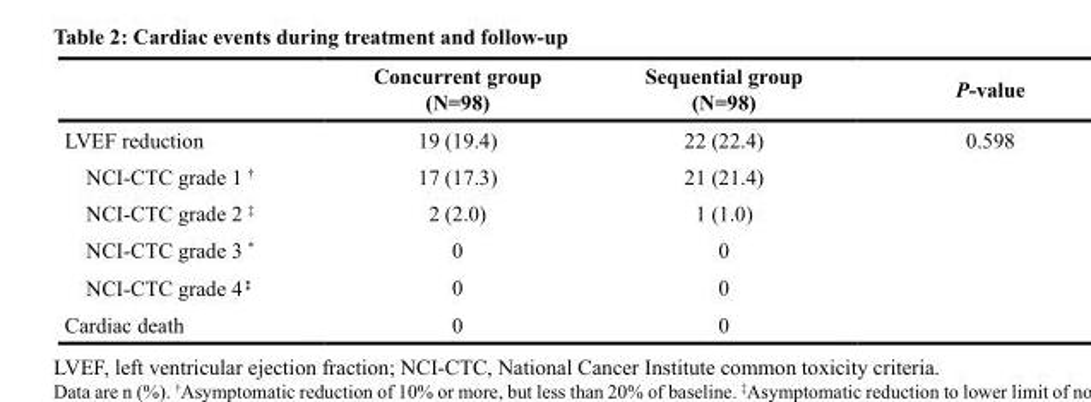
<table><thead><tr><td></td><td>Concurrent group (N=98)</td><td>Sequential group (N=98)</td><td>P-value</td></tr></thead><tbody><tr><td>LVEF reduction</td><td>19 (19.4)</td><td>22 (22.4)</td><td>0.598</td></tr><tr><td>NCI-CTC grade 1 †</td><td>17 (17.3)</td><td>21 (21.4)</td><td></td></tr><tr><td>NCI-CTC grade 2 ‡</td><td>2 (2.0)</td><td>1 (1.0)</td><td></td></tr><tr><td>NCI-CTC grade 3 *</td><td>0</td><td>0</td><td></td></tr><tr><td>NCI-CTC grade 4⁑</td><td>0</td><td>0</td><td></td></tr><tr><td>Cardiac death</td><td>0</td><td>0</td><td></td></tr></tbody></table>